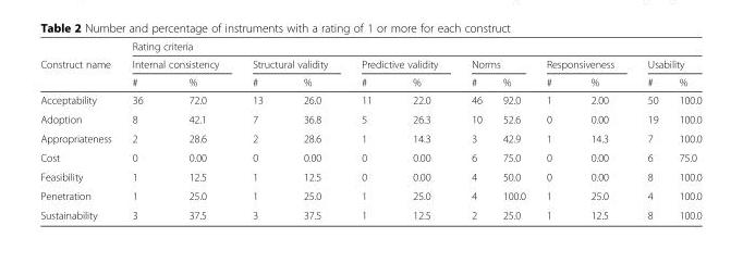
<table><thead><tr><td rowspan="3">Construct name</td><td colspan="12">Rating criteria</td></tr><tr><td colspan="2">Internal consistency</td><td colspan="2">Structural validity</td><td colspan="2">Predictive validity</td><td colspan="2">Norms</td><td colspan="2">Responsiveness</td><td colspan="2">Usability</td></tr><tr><td>#</td><td>%</td><td>#</td><td>%</td><td>#</td><td>%</td><td>#</td><td>%</td><td>#</td><td>%</td><td>#</td><td>%</td></tr></thead><tbody><tr><td>Acceptability</td><td>36</td><td>72.0</td><td>13</td><td>26.0</td><td>11</td><td>22.0</td><td>46</td><td>92.0</td><td>1</td><td>2.00</td><td>50</td><td>100.0</td></tr><tr><td>Adoption</td><td>8</td><td>42.1</td><td>7</td><td>36.8</td><td>5</td><td>26.3</td><td>10</td><td>52.6</td><td>0</td><td>0.00</td><td>19</td><td>100.0</td></tr><tr><td>Appropriateness</td><td>2</td><td>28.6</td><td>2</td><td>28.6</td><td>1</td><td>14.3</td><td>3</td><td>42.9</td><td>1</td><td>14.3</td><td>7</td><td>100.0</td></tr><tr><td>Cost</td><td>0</td><td>0.00</td><td>0</td><td>0.00</td><td>0</td><td>0.00</td><td>6</td><td>75.0</td><td>0</td><td>0.00</td><td>6</td><td>75.0</td></tr><tr><td>Feasibility</td><td>1</td><td>12.5</td><td>1</td><td>12.5</td><td>0</td><td>0.00</td><td>4</td><td>50.0</td><td>0</td><td>0.00</td><td>8</td><td>100.0</td></tr><tr><td>Penetration</td><td>1</td><td>25.0</td><td>1</td><td>25.0</td><td>1</td><td>25.0</td><td>4</td><td>100.0</td><td>1</td><td>25.0</td><td>4</td><td>100.0</td></tr><tr><td>Sustainability</td><td>3</td><td>37.5</td><td>3</td><td>37.5</td><td>1</td><td>12.5</td><td>2</td><td>25.0</td><td>1</td><td>12.5</td><td>8</td><td>100.0</td></tr></tbody></table>